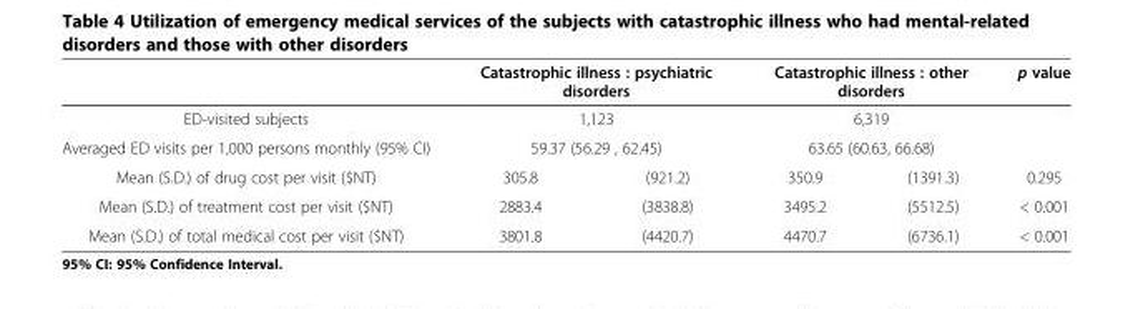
<table><thead><tr><td rowspan="4">ED-visited subjects Averaged ED visits per 1,000 persons monthly (95% CI) Mean (S.D.) of drug cost per visit ($NT)</td><td rowspan="3" colspan="2">Catastrophic illness : psychiatric disorders 1,123 59.37 (56.29 , 62.45)</td><td rowspan="3" colspan="2">Catastrophic illness : other disorders 6,319 63.65 (60.63, 66.68)</td><td rowspan="4">p value 0.295</td></tr><tr></tr><tr></tr><tr><td>305.8</td><td>(921.2)</td><td>350.9</td><td>(1391.3)</td></tr></thead><tbody><tr><td>Mean (S.D.) of treatment cost per visit ($NT)</td><td>2883.4</td><td>(3838.8)</td><td>3495.2</td><td>(5512.5)</td><td>&lt; 0.001</td></tr><tr><td>Mean (S.D.) of total medical cost per visit ($NT)</td><td>3801.8</td><td>(4420.7)</td><td>4470.7</td><td>(6736.1)</td><td>&lt; 0.001</td></tr></tbody></table>